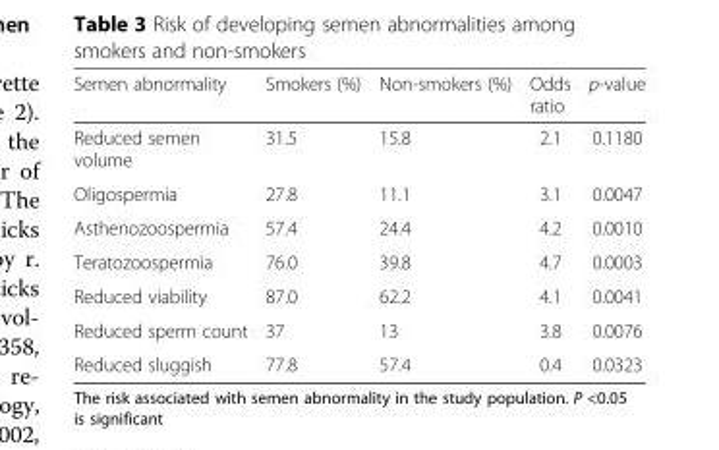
<table><thead><tr><td>Semen abnormality</td><td>Smokers (%)</td><td>Non-smokers (%)</td><td>Odds ratio</td><td>p-value</td></tr></thead><tbody><tr><td>Reduced semen volume</td><td>31.5</td><td>15.8</td><td>2.1</td><td>0.1180</td></tr><tr><td>Oligospermia</td><td>27.8</td><td>11.1</td><td>3.1</td><td>0.0047</td></tr><tr><td>Asthenozoospermia</td><td>57.4</td><td>24.4</td><td>4.2</td><td>0.0010</td></tr><tr><td>Teratozoospermia</td><td>76.0</td><td>39.8</td><td>4.7</td><td>0.0003</td></tr><tr><td>Reduced viability</td><td>87.0</td><td>62.2</td><td>4.1</td><td>0.0041</td></tr><tr><td>Reduced sperm count</td><td>37</td><td>13</td><td>3.8</td><td>0.0076</td></tr><tr><td>Reduced sluggish</td><td>77.8</td><td>57.4</td><td>0.4</td><td>0.0323</td></tr></tbody></table>